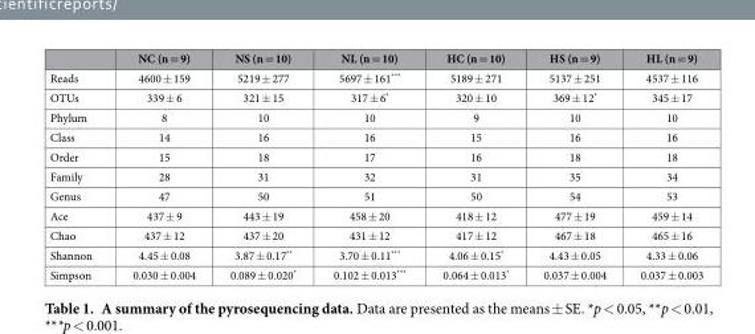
<table><thead><tr><td></td><td>NC (n = 9)</td><td>NS (n = 10)</td><td>NL (n = 10)</td><td>HC (n = 10)</td><td>HS (n = 9)</td><td>HL (n = 9)</td></tr></thead><tbody><tr><td>Reads</td><td>4600 ± 159</td><td>5219 ± 277</td><td>5697 ± 161***</td><td>5189 ± 271</td><td>5137 ± 251</td><td>4537 ± 116</td></tr><tr><td>OTUs</td><td>339 ± 6</td><td>321 ± 15</td><td>317 ± 6*</td><td>320 ± 10</td><td>369 ± 12*</td><td>345 ± 17</td></tr><tr><td>Phylum</td><td>8</td><td>10</td><td>10</td><td>9</td><td>10</td><td>10</td></tr><tr><td>Class</td><td>14</td><td>16</td><td>16</td><td>15</td><td>16</td><td>16</td></tr><tr><td>Order</td><td>15</td><td>18</td><td>17</td><td>16</td><td>18</td><td>18</td></tr><tr><td>Family</td><td>28</td><td>31</td><td>32</td><td>31</td><td>35</td><td>34</td></tr><tr><td>Genus</td><td>47</td><td>50</td><td>51</td><td>50</td><td>54</td><td>53</td></tr><tr><td>Ace</td><td>437 ± 9</td><td>443 ± 19</td><td>458 ± 20</td><td>418 ± 12</td><td>477 ± 19</td><td>459 ± 14</td></tr><tr><td>Chao</td><td>437 ± 12</td><td>437 ± 20</td><td>431 ± 12</td><td>417 ± 12</td><td>467 ± 18</td><td>465 ± 16</td></tr><tr><td>Shannon</td><td>4.45 ± 0.08</td><td>3.87 ± 0.17**</td><td>3.70 ± 0.11***</td><td>4.06 ± 0.15*</td><td>4.43 ± 0.05</td><td>4.33 ± 0.06</td></tr><tr><td>Simpson</td><td>0.030 ± 0.004</td><td>0.089 ± 0.020*</td><td>0.102 ± 0.013***</td><td>0.064 ± 0.013*</td><td>0.037 ± 0.004</td><td>0.037 ± 0.003</td></tr></tbody></table>